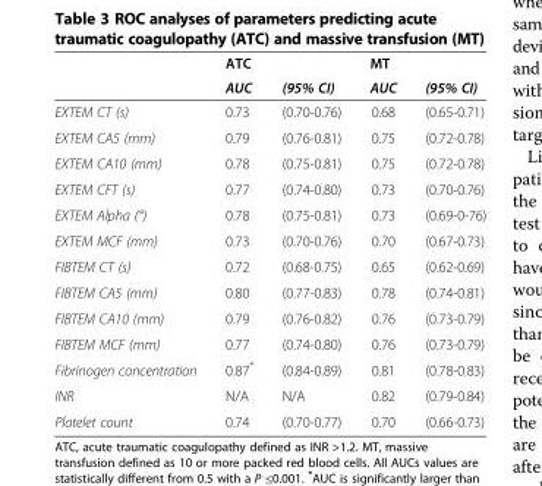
<table><thead><tr><td rowspan="2"></td><td rowspan="2">ATC AUC</td><td rowspan="2">(95% CI)</td><td rowspan="2">MT AUC</td><td rowspan="2">(95% CI)</td></tr><tr></tr></thead><tbody><tr><td>EXTEM CT (s)</td><td>0.73</td><td>(0.70-0.76)</td><td>0.68</td><td>(0.65-0.71)</td></tr><tr><td>EXTEM CA5 (mm)</td><td>0.79</td><td>(0.76-0.81)</td><td>0.75</td><td>(0.72-0.78)</td></tr><tr><td>EXTEM CA10 (mm)</td><td>0.78</td><td>(0.75-0.81)</td><td>0.75</td><td>(0.72-0.78)</td></tr><tr><td>EXTEM CFT (s)</td><td>0.77</td><td>(0.74-0.80)</td><td>0.73</td><td>(0.70-0.76)</td></tr><tr><td>EXTEM Alpha (°)</td><td>0.78</td><td>(0.75-0.81)</td><td>0.73</td><td>(0.69-0-76)</td></tr><tr><td>EXTEM MCF (mm)</td><td>0.73</td><td>(0.70-0.76)</td><td>0.70</td><td>(0.67-0.73)</td></tr><tr><td>FIBTEM CT (s)</td><td>0.72</td><td>(0.68-0.75)</td><td>0.65</td><td>(0.62-0.69)</td></tr><tr><td>FIBTEM CA5 (mm)</td><td>0.80</td><td>(0.77-0.83)</td><td>0.78</td><td>(0.74-0.81)</td></tr><tr><td>FIBTEM CA10 (mm)</td><td>0.79</td><td>(0.76-0.82)</td><td>0.76</td><td>(0.73-0.79)</td></tr><tr><td>FIBTEM MCF (mm)</td><td>0.77</td><td>(0.74-0.80)</td><td>0.76</td><td>(0.73-0.79)</td></tr><tr><td>Fibrinogen concentration</td><td>0.87*</td><td>(0.84-0.89)</td><td>0.81</td><td>(0.78-0.83)</td></tr><tr><td>INR</td><td>N/A</td><td>N/A</td><td>0.82</td><td>(0.79-0.84)</td></tr><tr><td>Platelet count</td><td>0.74</td><td>(0.70-0.77)</td><td>0.70</td><td>(0.66-0.73)</td></tr></tbody></table>